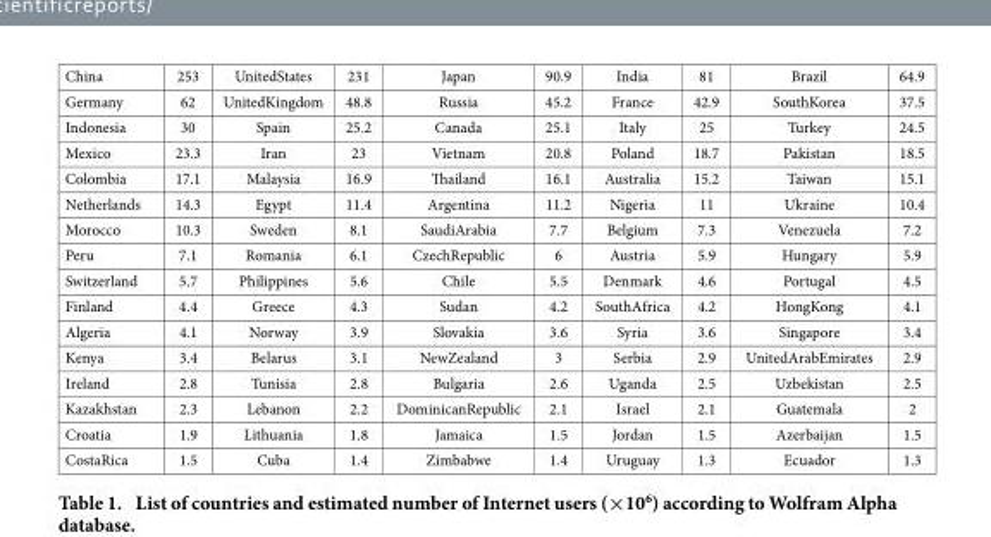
<table><tbody><tr><td>China</td><td>253</td><td>UnitedStates</td><td>231</td><td>Japan</td><td>90.9</td><td>India</td><td>81</td><td>Brazil</td><td>64.9</td></tr><tr><td>Germany</td><td>62</td><td>UnitedKingdom</td><td>48.8</td><td>Russia</td><td>45.2</td><td>France</td><td>42.9</td><td>SouthKorea</td><td>37.5</td></tr><tr><td>Indonesia</td><td>30</td><td>Spain</td><td>25.2</td><td>Canada</td><td>25.1</td><td>Italy</td><td>25</td><td>Turkey</td><td>24.5</td></tr><tr><td>Mexico</td><td>23.3</td><td>Iran</td><td>23</td><td>Vietnam</td><td>20.8</td><td>Poland</td><td>18.7</td><td>Pakistan</td><td>18.5</td></tr><tr><td>Colombia</td><td>17.1</td><td>Malaysia</td><td>16.9</td><td>Thailand</td><td>16.1</td><td>Australia</td><td>15.2</td><td>Taiwan</td><td>15.1</td></tr><tr><td>Netherlands</td><td>14.3</td><td>Egypt</td><td>11.4</td><td>Argentina</td><td>11.2</td><td>Nigeria</td><td>11</td><td>Ukraine</td><td>10.4</td></tr><tr><td>Morocco</td><td>10.3</td><td>Sweden</td><td>8.1</td><td>SaudiArabia</td><td>7.7</td><td>Belgium</td><td>7.3</td><td>Venezuela</td><td>7.2</td></tr><tr><td>Peru</td><td>7.1</td><td>Romania</td><td>6.1</td><td>CzechRepublic</td><td>6</td><td>Austria</td><td>5.9</td><td>Hungary</td><td>5.9</td></tr><tr><td>Switzerland</td><td>5.7</td><td>Philippines</td><td>5.6</td><td>Chile</td><td>5.5</td><td>Denmark</td><td>4.6</td><td>Portugal</td><td>4.5</td></tr><tr><td>Finland</td><td>4.4</td><td>Greece</td><td>4.3</td><td>Sudan</td><td>4.2</td><td>SouthAfrica</td><td>4.2</td><td>HongKong</td><td>4.1</td></tr><tr><td>Algeria</td><td>4.1</td><td>Norway</td><td>3.9</td><td>Slovakia</td><td>3.6</td><td>Syria</td><td>3.6</td><td>Singapore</td><td>3.4</td></tr><tr><td>Kenya</td><td>3.4</td><td>Belarus</td><td>3.1</td><td>NewZealand</td><td>3</td><td>Serbia</td><td>2.9</td><td>UnitedArabEmirates</td><td>2.9</td></tr><tr><td>Ireland</td><td>2.8</td><td>Tunisia</td><td>2.8</td><td>Bulgaria</td><td>2.6</td><td>Uganda</td><td>2.5</td><td>Uzbekistan</td><td>2.5</td></tr><tr><td>Kazakhstan</td><td>2.3</td><td>Lebanon</td><td>2.2</td><td>DominicanRepublic</td><td>2.1</td><td>Israel</td><td>2.1</td><td>Guatemala</td><td>2</td></tr><tr><td>Croatia</td><td>1.9</td><td>Lithuania</td><td>1.8</td><td>Jamaica</td><td>1.5</td><td>Jordan</td><td>1.5</td><td>Azerbaijan</td><td>1.5</td></tr><tr><td>CostaRica</td><td>1.5</td><td>Cuba</td><td>1.4</td><td>Zimbabwe</td><td>1.4</td><td>Uruguay</td><td>1.3</td><td>Ecuador</td><td>1.3</td></tr></tbody></table>